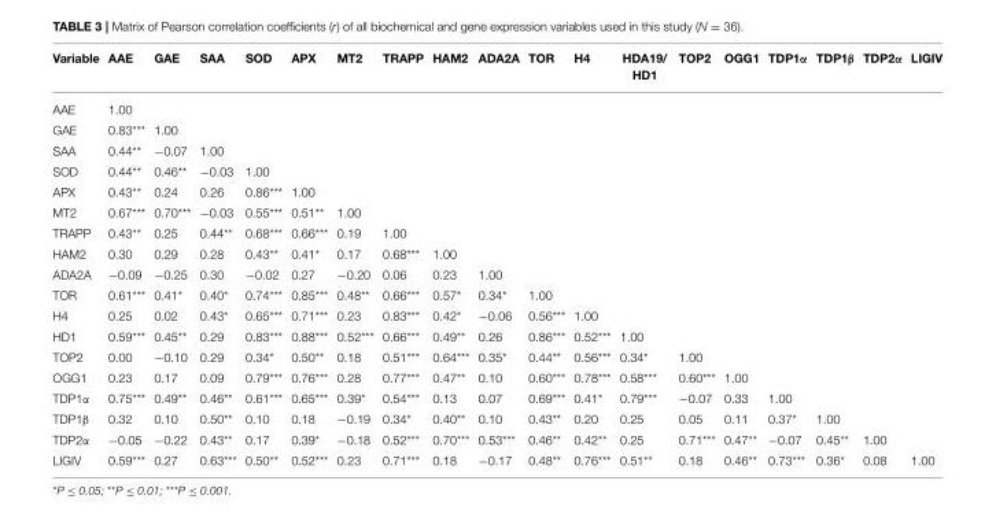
<table><thead><tr><td>Variable</td><td>AAE</td><td>GAE</td><td>SAA</td><td>SOD</td><td>APX</td><td>MT2</td><td>TRAPP</td><td>HAM2</td><td>ADA2A</td><td>TOR</td><td>H4</td><td>HDA19/ HD1</td><td>TOP2</td><td>OGG1</td><td>TDP1α</td><td>TDP1β</td><td>TDP2α</td><td>LIGIV</td></tr></thead><tbody><tr><td>AAE</td><td>1.00</td><td></td><td></td><td></td><td></td><td></td><td></td><td></td><td></td><td></td><td></td><td></td><td></td><td></td><td></td><td></td><td></td><td></td></tr><tr><td>GAE</td><td>0.83***</td><td>1.00</td><td></td><td></td><td></td><td></td><td></td><td></td><td></td><td></td><td></td><td></td><td></td><td></td><td></td><td></td><td></td><td></td></tr><tr><td>SAA</td><td>0.44**</td><td>−0.07</td><td>1.00</td><td></td><td></td><td></td><td></td><td></td><td></td><td></td><td></td><td></td><td></td><td></td><td></td><td></td><td></td><td></td></tr><tr><td>SOD</td><td>0.44**</td><td>0.46**</td><td>−0.03</td><td>1.00</td><td></td><td></td><td></td><td></td><td></td><td></td><td></td><td></td><td></td><td></td><td></td><td></td><td></td><td></td></tr><tr><td>APX</td><td>0.43**</td><td>0.24</td><td>0.26</td><td>0.86***</td><td>1.00</td><td></td><td></td><td></td><td></td><td></td><td></td><td></td><td></td><td></td><td></td><td></td><td></td><td></td></tr><tr><td>MT2</td><td>0.67***</td><td>0.70***</td><td>−0.03</td><td>0.55***</td><td>0.51**</td><td>1.00</td><td></td><td></td><td></td><td></td><td></td><td></td><td></td><td></td><td></td><td></td><td></td><td></td></tr><tr><td>TRAPP</td><td>0.43**</td><td>0.25</td><td>0.44**</td><td>0.68***</td><td>0.66***</td><td>0.19</td><td>1.00</td><td></td><td></td><td></td><td></td><td></td><td></td><td></td><td></td><td></td><td></td><td></td></tr><tr><td>HAM2</td><td>0.30</td><td>0.29</td><td>0.28</td><td>0.43**</td><td>0.41*</td><td>0.17</td><td>0.68***</td><td>1.00</td><td></td><td></td><td></td><td></td><td></td><td></td><td></td><td></td><td></td><td></td></tr><tr><td>ADA2A</td><td>−0.09</td><td>−0.25</td><td>0.30</td><td>−0.02</td><td>0.27</td><td>−0.20</td><td>0.06</td><td>0.23</td><td>1.00</td><td></td><td></td><td></td><td></td><td></td><td></td><td></td><td></td><td></td></tr><tr><td>TOR</td><td>0.61***</td><td>0.41*</td><td>0.40*</td><td>0.74***</td><td>0.85***</td><td>0.48**</td><td>0.66***</td><td>0.57*</td><td>0.34*</td><td>1.00</td><td></td><td></td><td></td><td></td><td></td><td></td><td></td><td></td></tr><tr><td>H4</td><td>0.25</td><td>0.02</td><td>0.43*</td><td>0.65***</td><td>0.71***</td><td>0.23</td><td>0.83***</td><td>0.42*</td><td>−0.06</td><td>0.56***</td><td>1.00</td><td></td><td></td><td></td><td></td><td></td><td></td><td></td></tr><tr><td>HD1</td><td>0.59***</td><td>0.45**</td><td>0.29</td><td>0.83***</td><td>0.88***</td><td>0.52***</td><td>0.66***</td><td>0.49**</td><td>0.26</td><td>0.86***</td><td>0.52***</td><td>1.00</td><td></td><td></td><td></td><td></td><td></td><td></td></tr><tr><td>TOP2</td><td>0.00</td><td>−0.10</td><td>0.29</td><td>0.34*</td><td>0.50**</td><td>0.18</td><td>0.51***</td><td>0.64***</td><td>0.35*</td><td>0.44**</td><td>0.56***</td><td>0.34*</td><td>1.00</td><td></td><td></td><td></td><td></td><td></td></tr><tr><td>OGG1</td><td>0.23</td><td>0.17</td><td>0.09</td><td>0.79***</td><td>0.76***</td><td>0.28</td><td>0.77***</td><td>0.47**</td><td>0.10</td><td>0.60***</td><td>0.78***</td><td>0.58***</td><td>0.60***</td><td>1.00</td><td></td><td></td><td></td><td></td></tr><tr><td>TDP1α</td><td>0.75***</td><td>0.49**</td><td>0.46**</td><td>0.61***</td><td>0.65***</td><td>0.39*</td><td>0.54***</td><td>0.13</td><td>0.07</td><td>0.69***</td><td>0.41*</td><td>0.79***</td><td>−0.07</td><td>0.33</td><td>1.00</td><td></td><td></td><td></td></tr><tr><td>TDP1β</td><td>0.32</td><td>0.10</td><td>0.50**</td><td>0.10</td><td>0.18</td><td>−0.19</td><td>0.34*</td><td>0.40**</td><td>0.10</td><td>0.43**</td><td>0.20</td><td>0.25</td><td>0.05</td><td>0.11</td><td>0.37*</td><td>1.00</td><td></td><td></td></tr><tr><td>TDP2α</td><td>−0.05</td><td>−0.22</td><td>0.43**</td><td>0.17</td><td>0.39*</td><td>−0.18</td><td>0.52***</td><td>0.70***</td><td>0.53***</td><td>0.46**</td><td>0.42**</td><td>0.25</td><td>0.71***</td><td>0.47**</td><td>−0.07</td><td>0.45**</td><td>1.00</td><td></td></tr><tr><td>LIGIV</td><td>0.59***</td><td>0.27</td><td>0.63***</td><td>0.50**</td><td>0.52***</td><td>0.23</td><td>0.71***</td><td>0.18</td><td>−0.17</td><td>0.48**</td><td>0.76***</td><td>0.51**</td><td>0.18</td><td>0.46**</td><td>0.73***</td><td>0.36*</td><td>0.08</td><td>1.00</td></tr></tbody></table>